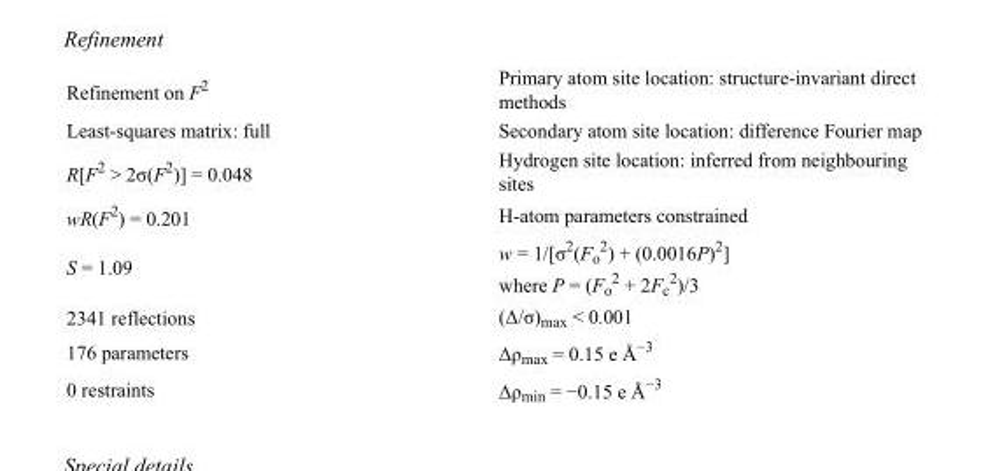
<table><tbody><tr><td>Refinement on F<sup>2</sup></td><td>Primary atom site location: structure-invariant direct methods</td></tr><tr><td>Least-squares matrix: full</td><td>Secondary atom site location: difference Fourier map</td></tr><tr><td>R[F<sup>2</sup> &gt; 2σ(F<sup>2</sup>)] = 0.048</td><td>Hydrogen site location: inferred from neighbouring sites</td></tr><tr><td>wR(F<sup>2</sup>) = 0.201</td><td>H-atom parameters constrained</td></tr><tr><td>S = 1.09</td><td>w = 1/[σ<sup>2</sup>(F<sub>o</sub> <sup>2</sup>) + (0.0016P)<sup>2</sup>] where P = (F<sub>o</sub> <sup>2</sup> + 2F<sub>c</sub> <sup>2</sup>)/3</td></tr><tr><td>2341 reflections</td><td>(Δ/σ)<sub>max</sub> &lt; 0.001</td></tr><tr><td>176 parameters</td><td>Δρ<sub>max</sub> = 0.15 e Å<sup>−3</sup></td></tr><tr><td>0 restraints</td><td>Δρ<sub>min</sub> = −0.15 e Å<sup>−3</sup></td></tr></tbody></table>